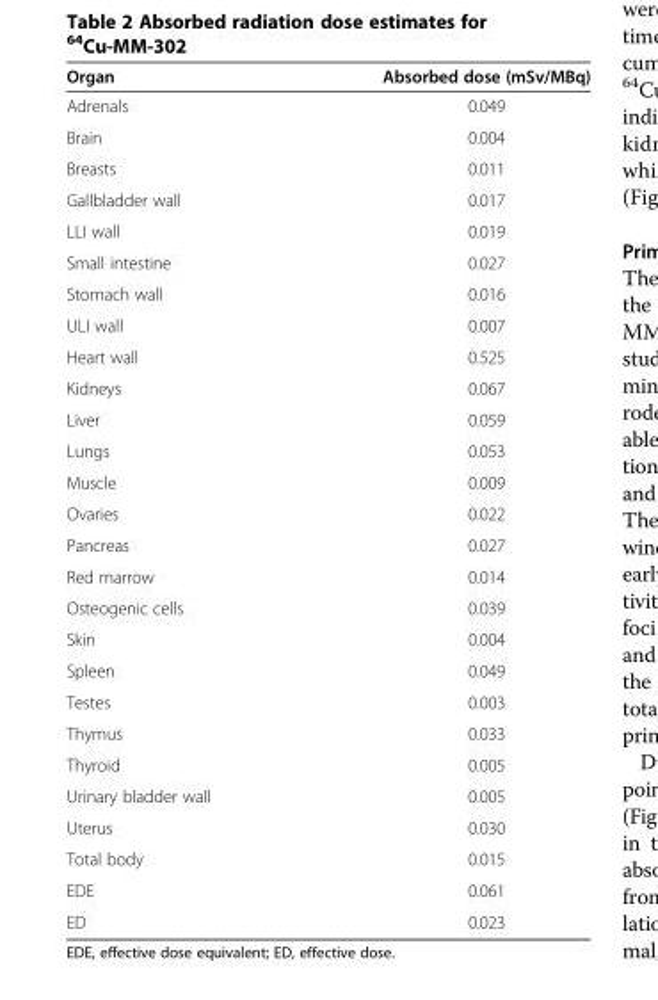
<table><thead><tr><td>Organ</td><td>Absorbed dose (mSv/MBq)</td></tr></thead><tbody><tr><td>Adrenals</td><td>0.049</td></tr><tr><td>Brain</td><td>0.004</td></tr><tr><td>Breasts</td><td>0.011</td></tr><tr><td>Gallbladder wall</td><td>0.017</td></tr><tr><td>LLI wall</td><td>0.019</td></tr><tr><td>Small intestine</td><td>0.027</td></tr><tr><td>Stomach wall</td><td>0.016</td></tr><tr><td>ULI wall</td><td>0.007</td></tr><tr><td>Heart wall</td><td>0.525</td></tr><tr><td>Kidneys</td><td>0.067</td></tr><tr><td>Liver</td><td>0.059</td></tr><tr><td>Lungs</td><td>0.053</td></tr><tr><td>Muscle</td><td>0.009</td></tr><tr><td>Ovaries</td><td>0.022</td></tr><tr><td>Pancreas</td><td>0.027</td></tr><tr><td>Red marrow</td><td>0.014</td></tr><tr><td>Osteogenic cells</td><td>0.039</td></tr><tr><td>Skin</td><td>0.004</td></tr><tr><td>Spleen</td><td>0.049</td></tr><tr><td>Testes</td><td>0.003</td></tr><tr><td>Thymus</td><td>0.033</td></tr><tr><td>Thyroid</td><td>0.005</td></tr><tr><td>Urinary bladder wall</td><td>0.005</td></tr><tr><td>Uterus</td><td>0.030</td></tr><tr><td>Total body</td><td>0.015</td></tr><tr><td>EDE</td><td>0.061</td></tr><tr><td>ED</td><td>0.023</td></tr></tbody></table>